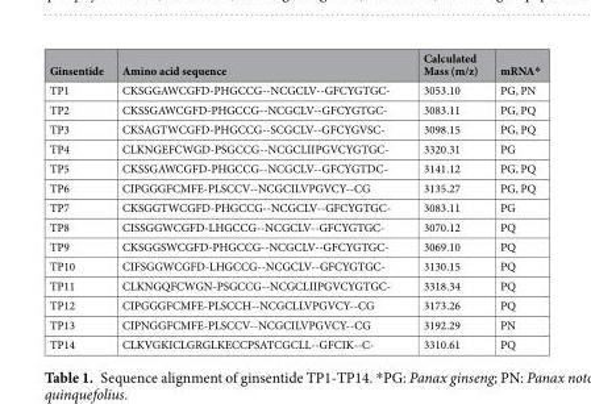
<table><thead><tr><td>Ginsentide</td><td>Amino acid sequence</td><td>Calculated Mass (m/z)</td><td>mRNA*</td></tr></thead><tbody><tr><td>TP1</td><td>CKSGGAWCGFD-PHGCCG--NCGCLV--GFCYGTGC-</td><td>3053.10</td><td>PG, PN</td></tr><tr><td>TP2</td><td>CKSSGAWCGFD-PHGCCG--NCGCLV--GFCYGTGC-</td><td>3083.11</td><td>PG, PQ</td></tr><tr><td>TP3</td><td>CKSAGTWCGFD-PHGCCG--SCGCLV--GFCYGVSC-</td><td>3098.15</td><td>PG, PQ</td></tr><tr><td>TP4</td><td>CLKNGEFCWGD-PSGCCG--NCGCLIIPGVCYGTGC-</td><td>3320.31</td><td>PG</td></tr><tr><td>TP5</td><td>CKSSGAWCGFD-PHGCCG--NCGCLV--GFCYGTDC-</td><td>3141.12</td><td>PG, PQ</td></tr><tr><td>TP6</td><td>CIPGGGFCMFE-PLSCCV--NCGCILVPGVCY--CG</td><td>3135.27</td><td>PG, PQ</td></tr><tr><td>TP7</td><td>CKSGGTWCGFD-PHGCCG--NCGCLV--GFCYGTGC-</td><td>3083.11</td><td>PG</td></tr><tr><td>TP8</td><td>CISSGGWCGFD-LHGCCG--NCGCLV--GFCYGTGC-</td><td>3070.12</td><td>PQ</td></tr><tr><td>TP9</td><td>CKSGGSWCGFD-PHGCCG--NCGCLV--GFCYGTGC-</td><td>3069.10</td><td>PQ</td></tr><tr><td>TP10</td><td>CIFSGGWCGFD-LHGCCG--NCGCLV--GFCYGTGC-</td><td>3130.15</td><td>PQ</td></tr><tr><td>TP11</td><td>CLKNGQFCWGN-PSGCCG--NCGCLIIPGVCYGTGC-</td><td>3318.34</td><td>PQ</td></tr><tr><td>TP12</td><td>CIPGGGFCMFE-PLSCCH--NCGCLLVPGVCY--CG</td><td>3173.26</td><td>PQ</td></tr><tr><td>TP13</td><td>CIPNGGFCMFE-PLSCCV--NCGCILVPGVCY--CG</td><td>3192.29</td><td>PN</td></tr><tr><td>TP14</td><td>CLKVGKICLGRGLKECCPSATCGCLL--GFCIK--C-</td><td>3310.61</td><td>PQ</td></tr></tbody></table>